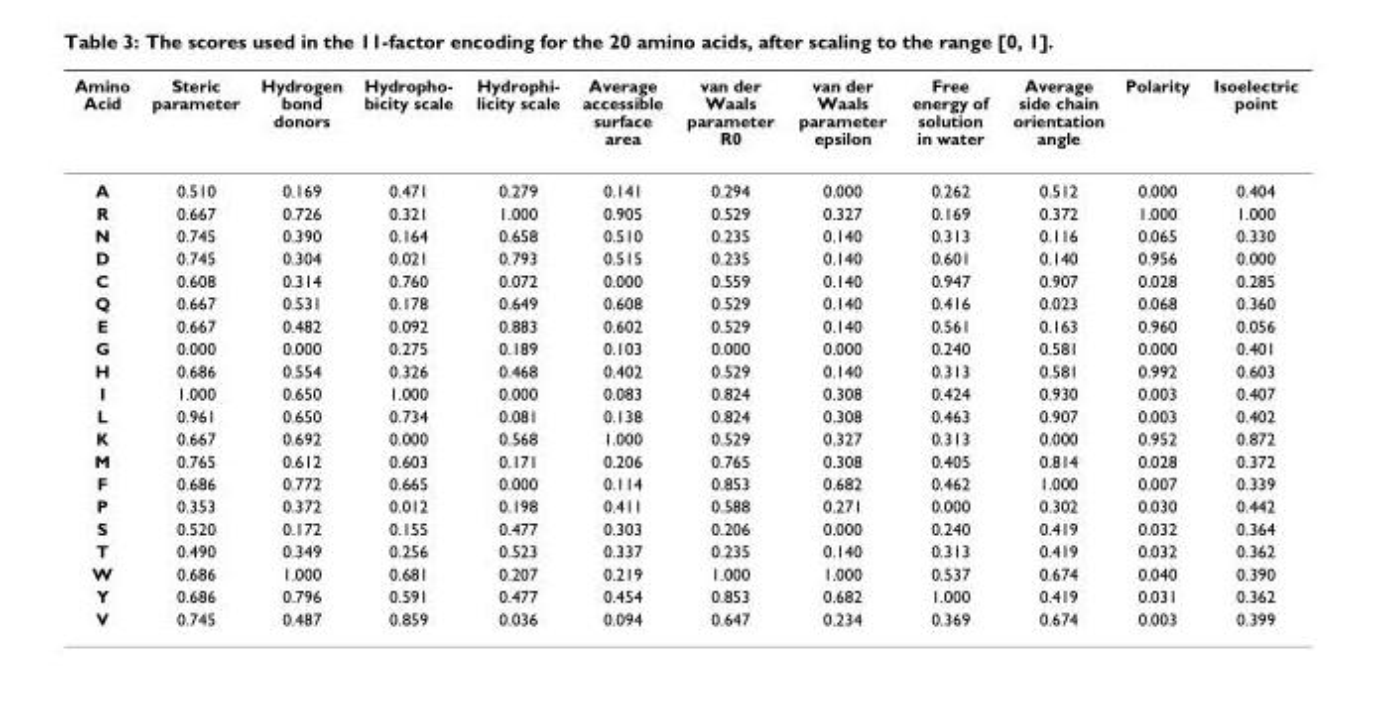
<table><thead><tr><td>Amino Acid</td><td>Steric parameter</td><td>Hydrogen bond donors</td><td>Hydropho- bicity scale</td><td>Hydrophi- licity scale</td><td>Average accessible surface area</td><td>van der Waals parameter R0</td><td>van der Waals parameter epsilon</td><td>Free energy of solution in water</td><td>Average side chain orientation angle</td><td>Polarity</td><td>Isoelectric point</td></tr></thead><tbody><tr><td>A</td><td>0.510</td><td>0.169</td><td>0.471</td><td>0.279</td><td>0.141</td><td>0.294</td><td>0.000</td><td>0.262</td><td>0.512</td><td>0.000</td><td>0.404</td></tr><tr><td>R</td><td>0.667</td><td>0.726</td><td>0.321</td><td>1.000</td><td>0.905</td><td>0.529</td><td>0.327</td><td>0.169</td><td>0.372</td><td>1.000</td><td>1.000</td></tr><tr><td>N</td><td>0.745</td><td>0.390</td><td>0.164</td><td>0.658</td><td>0.510</td><td>0.235</td><td>0.140</td><td>0.313</td><td>0.116</td><td>0.065</td><td>0.330</td></tr><tr><td>D</td><td>0.745</td><td>0.304</td><td>0.021</td><td>0.793</td><td>0.515</td><td>0.235</td><td>0.140</td><td>0.601</td><td>0.140</td><td>0.956</td><td>0.000</td></tr><tr><td>C</td><td>0.608</td><td>0.314</td><td>0.760</td><td>0.072</td><td>0.000</td><td>0.559</td><td>0.140</td><td>0.947</td><td>0.907</td><td>0.028</td><td>0.285</td></tr><tr><td>Q</td><td>0.667</td><td>0.531</td><td>0.178</td><td>0.649</td><td>0.608</td><td>0.529</td><td>0.140</td><td>0.416</td><td>0.023</td><td>0.068</td><td>0.360</td></tr><tr><td>E</td><td>0.667</td><td>0.482</td><td>0.092</td><td>0.883</td><td>0.602</td><td>0.529</td><td>0.140</td><td>0.561</td><td>0.163</td><td>0.960</td><td>0.056</td></tr><tr><td>G</td><td>0.000</td><td>0.000</td><td>0.275</td><td>0.189</td><td>0.103</td><td>0.000</td><td>0.000</td><td>0.240</td><td>0.581</td><td>0.000</td><td>0.401</td></tr><tr><td>H</td><td>0.686</td><td>0.554</td><td>0.326</td><td>0.468</td><td>0.402</td><td>0.529</td><td>0.140</td><td>0.313</td><td>0.581</td><td>0.992</td><td>0.603</td></tr><tr><td>I</td><td>1.000</td><td>0.650</td><td>1.000</td><td>0.000</td><td>0.083</td><td>0.824</td><td>0.308</td><td>0.424</td><td>0.930</td><td>0.003</td><td>0.407</td></tr><tr><td>L</td><td>0.961</td><td>0.650</td><td>0.734</td><td>0.081</td><td>0.138</td><td>0.824</td><td>0.308</td><td>0.463</td><td>0.907</td><td>0.003</td><td>0.402</td></tr><tr><td>K</td><td>0.667</td><td>0.692</td><td>0.000</td><td>0.568</td><td>1.000</td><td>0.529</td><td>0.327</td><td>0.313</td><td>0.000</td><td>0.952</td><td>0.872</td></tr><tr><td>M</td><td>0.765</td><td>0.612</td><td>0.603</td><td>0.171</td><td>0.206</td><td>0.765</td><td>0.308</td><td>0.405</td><td>0.814</td><td>0.028</td><td>0.372</td></tr><tr><td>F</td><td>0.686</td><td>0.772</td><td>0.665</td><td>0.000</td><td>0.114</td><td>0.853</td><td>0.682</td><td>0.462</td><td>1.000</td><td>0.007</td><td>0.339</td></tr><tr><td>P</td><td>0.353</td><td>0.372</td><td>0.012</td><td>0.198</td><td>0.411</td><td>0.588</td><td>0.271</td><td>0.000</td><td>0.302</td><td>0.030</td><td>0.442</td></tr><tr><td>S</td><td>0.520</td><td>0.172</td><td>0.155</td><td>0.477</td><td>0.303</td><td>0.206</td><td>0.000</td><td>0.240</td><td>0.419</td><td>0.032</td><td>0.364</td></tr><tr><td>T</td><td>0.490</td><td>0.349</td><td>0.256</td><td>0.523</td><td>0.337</td><td>0.235</td><td>0.140</td><td>0.313</td><td>0.419</td><td>0.032</td><td>0.362</td></tr><tr><td>W</td><td>0.686</td><td>1.000</td><td>0.681</td><td>0.207</td><td>0.219</td><td>1.000</td><td>1.000</td><td>0.537</td><td>0.674</td><td>0.040</td><td>0.390</td></tr><tr><td>Y</td><td>0.686</td><td>0.796</td><td>0.591</td><td>0.477</td><td>0.454</td><td>0.853</td><td>0.682</td><td>1.000</td><td>0.419</td><td>0.031</td><td>0.362</td></tr><tr><td>V</td><td>0.745</td><td>0.487</td><td>0.859</td><td>0.036</td><td>0.094</td><td>0.647</td><td>0.234</td><td>0.369</td><td>0.674</td><td>0.003</td><td>0.399</td></tr></tbody></table>